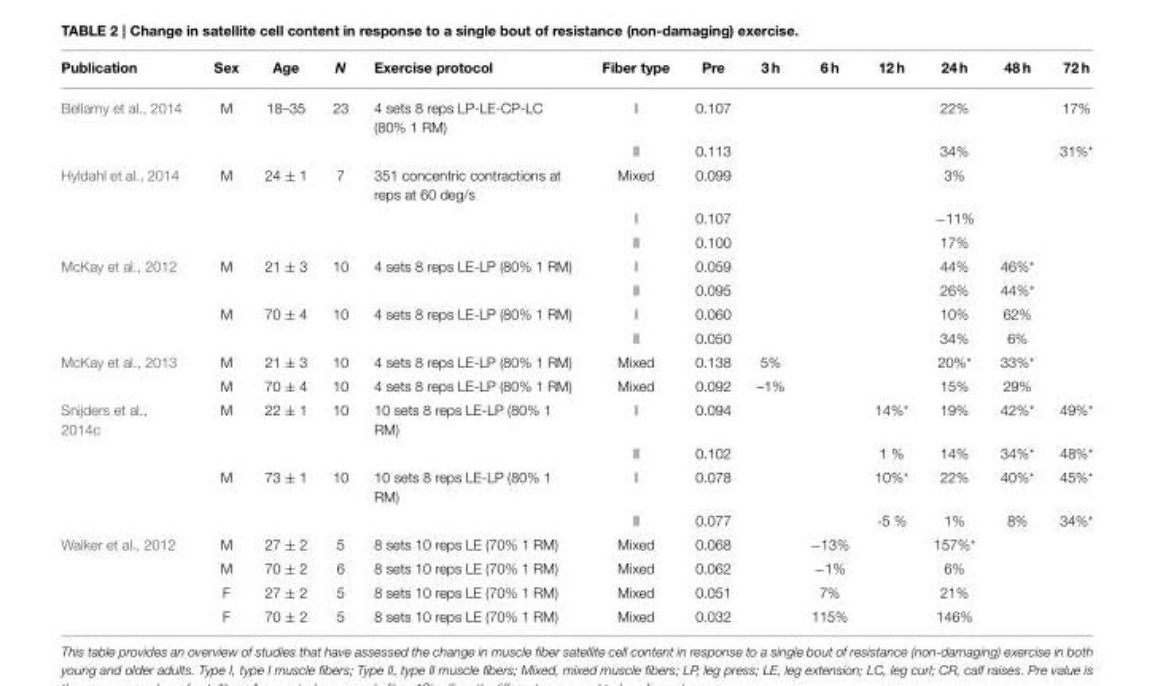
<table><thead><tr><td>Publication</td><td>Sex</td><td>Age</td><td>N</td><td>Exercise protocol</td><td>Fiber type</td><td>Pre</td><td>3 h</td><td>6 h</td><td>12 h</td><td>24 h</td><td>48 h</td><td>72 h</td></tr></thead><tbody><tr><td rowspan="2">Bellamy et al., 2014</td><td>M</td><td>18–35</td><td>23</td><td>4 sets 8 reps LP-LE-CP-LC (80% 1 RM)</td><td>I</td><td>0.107</td><td></td><td></td><td></td><td>22%</td><td></td><td>17%</td></tr><tr><td></td><td></td><td></td><td></td><td>II</td><td>0.113</td><td></td><td></td><td></td><td>34%</td><td></td><td>31%*</td></tr><tr><td rowspan="3">Hyldahl et al., 2014</td><td>M</td><td>24 ± 1</td><td>7</td><td>351 concentric contractions at reps at 60 deg/s</td><td>Mixed</td><td>0.099</td><td></td><td></td><td></td><td>3%</td><td></td><td></td></tr><tr><td></td><td></td><td></td><td></td><td>I</td><td>0.107</td><td></td><td></td><td></td><td>−11%</td><td></td><td></td></tr><tr><td></td><td></td><td></td><td></td><td>II</td><td>0.100</td><td></td><td></td><td></td><td>17%</td><td></td><td></td></tr><tr><td rowspan="4">McKay et al., 2012</td><td>M</td><td>21 ± 3</td><td>10</td><td>4 sets 8 reps LE-LP (80% 1 RM)</td><td>I</td><td>0.059</td><td></td><td></td><td></td><td>44%</td><td>46%*</td><td></td></tr><tr><td></td><td></td><td></td><td></td><td>II</td><td>0.095</td><td></td><td></td><td></td><td>26%</td><td>44%*</td><td></td></tr><tr><td>M</td><td>70 ± 4</td><td>10</td><td>4 sets 8 reps LE-LP (80% 1 RM)</td><td>I</td><td>0.060</td><td></td><td></td><td></td><td>10%</td><td>62%</td><td></td></tr><tr><td></td><td></td><td></td><td></td><td>II</td><td>0.050</td><td></td><td></td><td></td><td>34%</td><td>6%</td><td></td></tr><tr><td rowspan="2">McKay et al., 2013</td><td>M</td><td>21 ± 3</td><td>10</td><td>4 sets 8 reps LE-LP (80% 1 RM)</td><td>Mixed</td><td>0.138</td><td>5%</td><td></td><td></td><td>20%*</td><td>33%*</td><td></td></tr><tr><td>M</td><td>70 ± 4</td><td>10</td><td>4 sets 8 reps LE-LP (80% 1 RM)</td><td>Mixed</td><td>0.092</td><td>–1%</td><td></td><td></td><td>15%</td><td>29%</td><td></td></tr><tr><td rowspan="4">Snijders et al., 2014c</td><td>M</td><td>22 ± 1</td><td>10</td><td>10 sets 8 reps LE-LP (80% 1 RM)</td><td>I</td><td>0.094</td><td></td><td></td><td>14%*</td><td>19%</td><td>42%*</td><td>49%*</td></tr><tr><td></td><td></td><td></td><td></td><td>II</td><td>0.102</td><td></td><td></td><td>1 %</td><td>14%</td><td>34%*</td><td>48%*</td></tr><tr><td>M</td><td>73 ± 1</td><td>10</td><td>10 sets 8 reps LE-LP (80% 1 RM)</td><td>I</td><td>0.078</td><td></td><td></td><td>10%*</td><td>22%</td><td>40%*</td><td>45%*</td></tr><tr><td></td><td></td><td></td><td></td><td>II</td><td>0.077</td><td></td><td></td><td>-5 %</td><td>1%</td><td>8%</td><td>34%*</td></tr><tr><td rowspan="4">Walker et al., 2012</td><td>M</td><td>27 ± 2</td><td>5</td><td>8 sets 10 reps LE (70% 1 RM)</td><td>Mixed</td><td>0.068</td><td></td><td>−13%</td><td></td><td>157%*</td><td></td><td></td></tr><tr><td>M</td><td>70 ± 2</td><td>6</td><td>8 sets 10 reps LE (70% 1 RM)</td><td>Mixed</td><td>0.062</td><td></td><td>−1%</td><td></td><td>6%</td><td></td><td></td></tr><tr><td>F</td><td>27 ± 2</td><td>5</td><td>8 sets 10 reps LE (70% 1 RM)</td><td>Mixed</td><td>0.051</td><td></td><td>7%</td><td></td><td>21%</td><td></td><td></td></tr><tr><td>F</td><td>70 ± 2</td><td>5</td><td>8 sets 10 reps LE (70% 1 RM)</td><td>Mixed</td><td>0.032</td><td></td><td>115%</td><td></td><td>146%</td><td></td><td></td></tr></tbody></table>